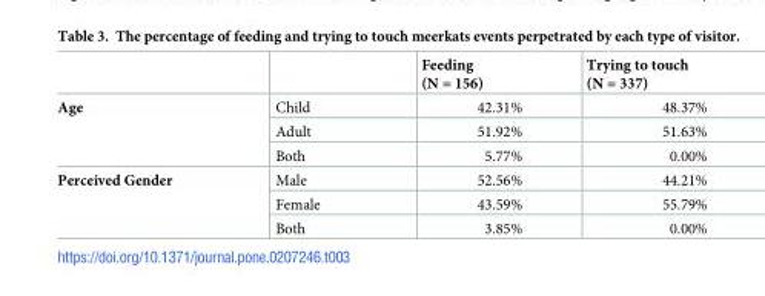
<table><thead><tr><td></td><td></td><td>Feeding (N = 156)</td><td>Trying to touch (N = 337)</td></tr></thead><tbody><tr><td rowspan="3">Age</td><td>Child</td><td>42.31%</td><td>48.37%</td></tr><tr><td>Adult</td><td>51.92%</td><td>51.63%</td></tr><tr><td>Both</td><td>5.77%</td><td>0.00%</td></tr><tr><td rowspan="3">Perceived Gender</td><td>Male</td><td>52.56%</td><td>44.21%</td></tr><tr><td>Female</td><td>43.59%</td><td>55.79%</td></tr><tr><td>Both</td><td>3.85%</td><td>0.00%</td></tr></tbody></table>